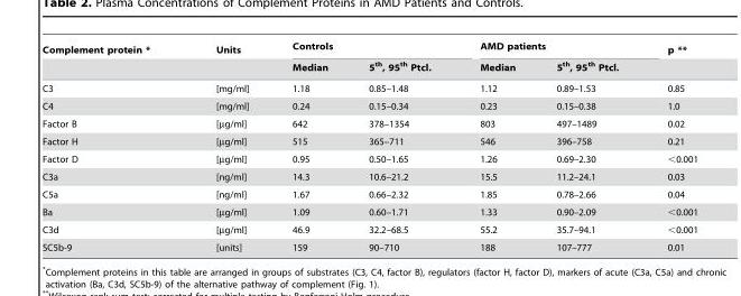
<table><thead><tr><td rowspan="2">Complement protein *</td><td rowspan="2">Units</td><td colspan="2">Controls</td><td colspan="2">AMD patients</td><td rowspan="2">p **</td></tr><tr><td>Median</td><td>5<sup>th</sup>, 95<sup>th</sup> Ptcl.</td><td>Median</td><td>5<sup>th</sup>, 95<sup>th</sup> Ptcl.</td></tr></thead><tbody><tr><td>C3</td><td>[mg/ml]</td><td>1.18</td><td>0.85–1.48</td><td>1.12</td><td>0.89–1.53</td><td>0.85</td></tr><tr><td>C4</td><td>[mg/ml]</td><td>0.24</td><td>0.15–0.34</td><td>0.23</td><td>0.15–0.38</td><td>1.0</td></tr><tr><td>Factor B</td><td>[µg/ml]</td><td>642</td><td>378–1354</td><td>803</td><td>497–1489</td><td>0.02</td></tr><tr><td>Factor H</td><td>[µg/ml]</td><td>515</td><td>365–711</td><td>546</td><td>396–758</td><td>0.21</td></tr><tr><td>Factor D</td><td>[µg/ml]</td><td>0.95</td><td>0.50–1.65</td><td>1.26</td><td>0.69–2.30</td><td>&lt;0.001</td></tr><tr><td>C3a</td><td>[ng/ml]</td><td>14.3</td><td>10.6–21.2</td><td>15.5</td><td>11.2–24.1</td><td>0.03</td></tr><tr><td>C5a</td><td>[ng/ml]</td><td>1.67</td><td>0.66–2.32</td><td>1.85</td><td>0.78–2.66</td><td>0.04</td></tr><tr><td>Ba</td><td>[µg/ml]</td><td>1.09</td><td>0.60–1.71</td><td>1.33</td><td>0.90–2.09</td><td>&lt;0.001</td></tr><tr><td>C3d</td><td>[µg/ml]</td><td>46.9</td><td>32.2–68.5</td><td>55.2</td><td>35.7–94.1</td><td>&lt;0.001</td></tr><tr><td>SC5b-9</td><td>[units]</td><td>159</td><td>90–710</td><td>188</td><td>107–777</td><td>0.01</td></tr></tbody></table>